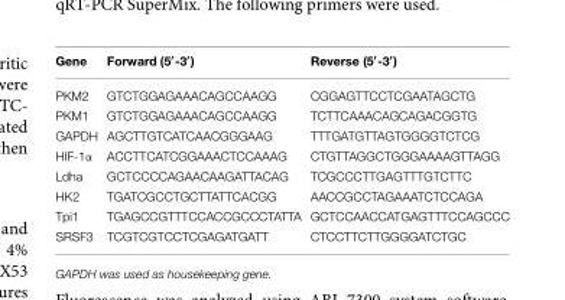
<table><thead><tr><td>Gene</td><td>Forward (5′-3′)</td><td>Reverse (5′-3′)</td></tr></thead><tbody><tr><td>PKM2</td><td>GTCTGGAGAAACAGCCAAGG</td><td>CGGAGTTCCTCGAATAGCTG</td></tr><tr><td>PKM1</td><td>GTCTGGAGAAACAGCCAAGG</td><td>TCTTCAAACAGCAGACGGTG</td></tr><tr><td>GAPDH</td><td>AGCTTGTCATCAACGGGAAG</td><td>TTTGATGTTAGTGGGGTCTCG</td></tr><tr><td>HIF-1α</td><td>ACCTTCATCGGAAACTCCAAAG</td><td>CTGTTAGGCTGGGAAAAGTTAGG</td></tr><tr><td>Ldha</td><td>GCTCCCCAGAACAAGATTACAG</td><td>TCGCCCTTGAGTTTGTCTTC</td></tr><tr><td>HK2</td><td>TGATCGCCTGCTTATTCACGG</td><td>AACCGCCTAGAAATCTCCAGA</td></tr><tr><td>Tpi1</td><td>TGAGCCGTTTCCACCGCCCTATTA</td><td>GCTCCAACCATGAGTTTCCAGCCC</td></tr><tr><td>SRSF3</td><td>TCGTCGTCCTCGAGATGATT</td><td>CTCCTTCTTGGGGATCTGC</td></tr></tbody></table>